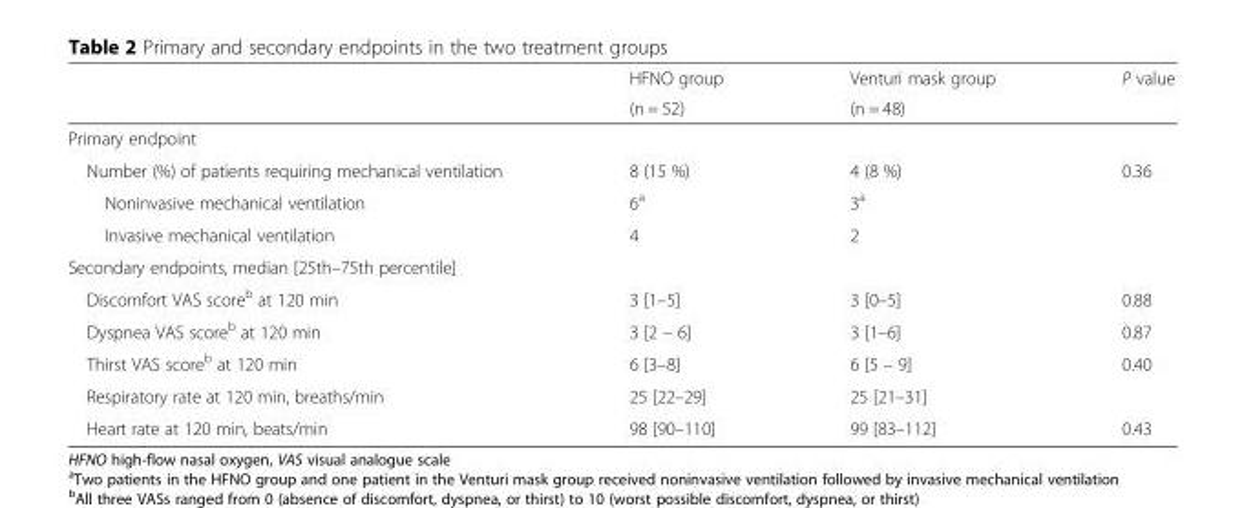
<table><thead><tr><td rowspan="2"></td><td rowspan="2">HFNO group (n = 52)</td><td rowspan="2">Venturi mask group (n = 48)</td><td rowspan="2">P value</td></tr><tr></tr></thead><tbody><tr><td colspan="4">Primary endpoint</td></tr><tr><td>Number (%) of patients requiring mechanical ventilation</td><td>8 (15 %)</td><td>4 (8 %)</td><td rowspan="3">0.36</td></tr><tr><td>Noninvasive mechanical ventilation</td><td>6<sup>a</sup></td><td>3<sup>a</sup></td></tr><tr><td>Invasive mechanical ventilation</td><td>4</td><td>2</td></tr><tr><td colspan="4">Secondary endpoints, median [25th–75th percentile]</td></tr><tr><td>Discomfort VAS score<sup>b</sup> at 120 min</td><td>3 [1–5]</td><td>3 [0–5]</td><td>0.88</td></tr><tr><td>Dyspnea VAS score<sup>b</sup> at 120 min</td><td>3 [2 – 6]</td><td>3 [1–6]</td><td>0.87</td></tr><tr><td>Thirst VAS score<sup>b</sup> at 120 min</td><td>6 [3–8]</td><td>6 [5 – 9]</td><td>0.40</td></tr><tr><td>Respiratory rate at 120 min, breaths/min</td><td>25 [22–29]</td><td>25 [21–31]</td><td></td></tr><tr><td>Heart rate at 120 min, beats/min</td><td>98 [90–110]</td><td>99 [83–112]</td><td>0.43</td></tr></tbody></table>